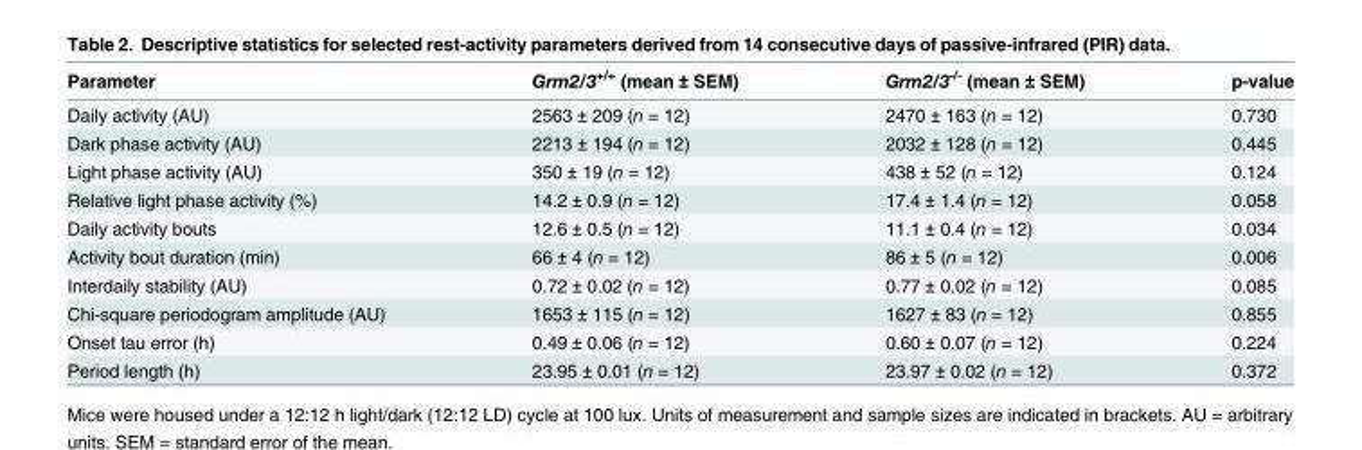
<table><thead><tr><td>Parameter</td><td>Grm2/3<sup>+/+</sup> (mean ± SEM)</td><td>Grm2/3<sup>-/-</sup> (mean ± SEM)</td><td>p-value</td></tr></thead><tbody><tr><td>Daily activity (AU)</td><td>2563 ± 209 (n = 12)</td><td>2470 ± 163 (n = 12)</td><td>0.730</td></tr><tr><td>Dark phase activity (AU)</td><td>2213 ± 194 (n = 12)</td><td>2032 ± 128 (n = 12)</td><td>0.445</td></tr><tr><td>Light phase activity (AU)</td><td>350 ± 19 (n = 12)</td><td>438 ± 52 (n = 12)</td><td>0.124</td></tr><tr><td>Relative light phase activity (%)</td><td>14.2 ± 0.9 (n = 12)</td><td>17.4 ± 1.4 (n = 12)</td><td>0.058</td></tr><tr><td>Daily activity bouts</td><td>12.6 ± 0.5 (n = 12)</td><td>11.1 ± 0.4 (n = 12)</td><td>0.034</td></tr><tr><td>Activity bout duration (min)</td><td>66 ± 4 (n = 12)</td><td>86 ± 5 (n = 12)</td><td>0.006</td></tr><tr><td>Interdaily stability (AU)</td><td>0.72 ± 0.02 (n = 12)</td><td>0.77 ± 0.02 (n = 12)</td><td>0.085</td></tr><tr><td>Chi-square periodogram amplitude (AU)</td><td>1653 ± 115 (n = 12)</td><td>1627 ± 83 (n = 12)</td><td>0.855</td></tr><tr><td>Onset tau error (h)</td><td>0.49 ± 0.06 (n = 12)</td><td>0.60 ± 0.07 (n = 12)</td><td>0.224</td></tr><tr><td>Period length (h)</td><td>23.95 ± 0.01 (n = 12)</td><td>23.97 ± 0.02 (n = 12)</td><td>0.372</td></tr></tbody></table>